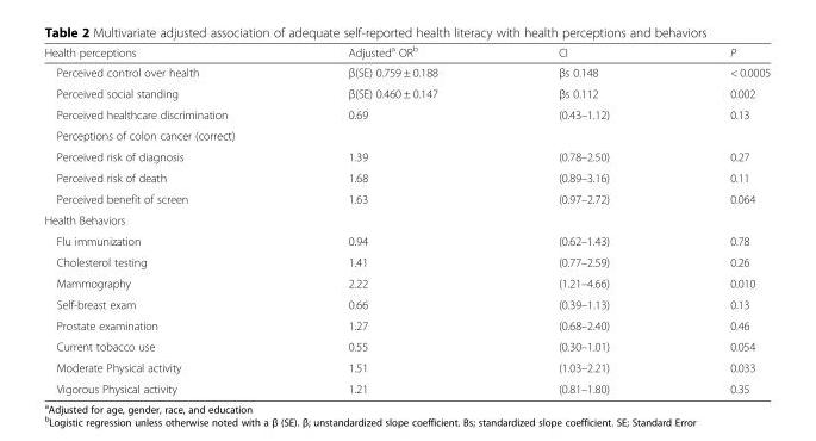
<table><thead><tr><td>Health perceptions</td><td>Adjusted<sup>a</sup> OR<sup>b</sup></td><td>CI</td><td>P</td></tr></thead><tbody><tr><td>Perceived control over health</td><td>β(SE) 0.759 ± 0.188</td><td>βs 0.148</td><td>&lt; 0.0005</td></tr><tr><td>Perceived social standing</td><td>β(SE) 0.460 ± 0.147</td><td>βs 0.112</td><td>0.002</td></tr><tr><td>Perceived healthcare discrimination</td><td>0.69</td><td>(0.43–1.12)</td><td>0.13</td></tr><tr><td colspan="4">Perceptions of colon cancer (correct)</td></tr><tr><td>Perceived risk of diagnosis</td><td>1.39</td><td>(0.78–2.50)</td><td>0.27</td></tr><tr><td>Perceived risk of death</td><td>1.68</td><td>(0.89–3.16)</td><td>0.11</td></tr><tr><td>Perceived benefit of screen</td><td>1.63</td><td>(0.97–2.72)</td><td>0.064</td></tr><tr><td colspan="4">Health Behaviors</td></tr><tr><td>Flu immunization</td><td>0.94</td><td>(0.62–1.43)</td><td>0.78</td></tr><tr><td>Cholesterol testing</td><td>1.41</td><td>(0.77–2.59)</td><td>0.26</td></tr><tr><td>Mammography</td><td>2.22</td><td>(1.21–4.66)</td><td>0.010</td></tr><tr><td>Self-breast exam</td><td>0.66</td><td>(0.39–1.13)</td><td>0.13</td></tr><tr><td>Prostate examination</td><td>1.27</td><td>(0.68–2.40)</td><td>0.46</td></tr><tr><td>Current tobacco use</td><td>0.55</td><td>(0.30–1.01)</td><td>0.054</td></tr><tr><td>Moderate Physical activity</td><td>1.51</td><td>(1.03–2.21)</td><td>0.033</td></tr><tr><td>Vigorous Physical activity</td><td>1.21</td><td>(0.81–1.80)</td><td>0.35</td></tr></tbody></table>